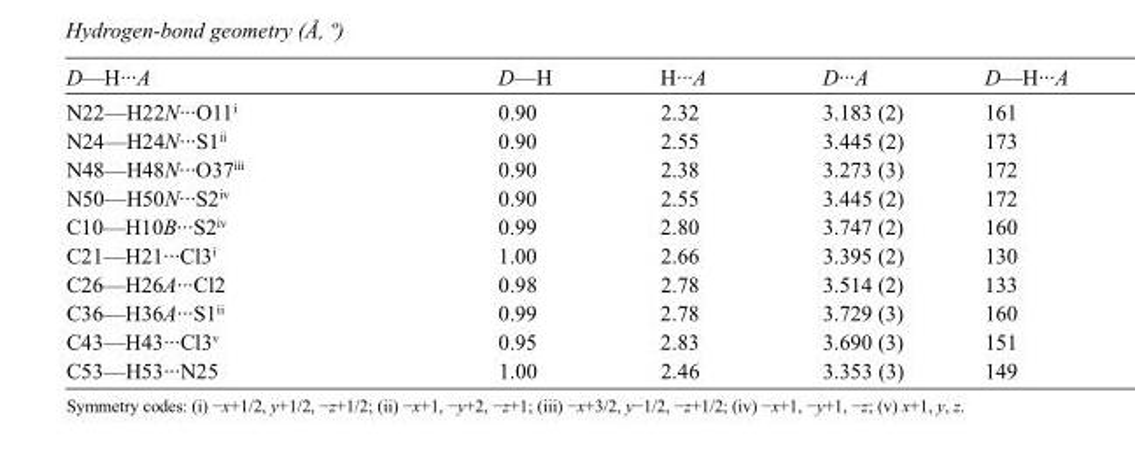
<table><tbody><tr><td>D—H···A</td><td>D—H</td><td>H···A</td><td>D···A</td><td>D—H···A</td></tr><tr><td>N22—H22N···O11<sup>i</sup></td><td>0.90</td><td>2.32</td><td>3.183 (2)</td><td>161</td></tr><tr><td>N24—H24N···S1<sup>ii</sup></td><td>0.90</td><td>2.55</td><td>3.445 (2)</td><td>173</td></tr><tr><td>N48—H48N···O37<sup>iii</sup></td><td>0.90</td><td>2.38</td><td>3.273 (3)</td><td>172</td></tr><tr><td>N50—H50N···S2<sup>iv</sup></td><td>0.90</td><td>2.55</td><td>3.445 (2)</td><td>172</td></tr><tr><td>C10—H10B···S2<sup>iv</sup></td><td>0.99</td><td>2.80</td><td>3.747 (2)</td><td>160</td></tr><tr><td>C21—H21···Cl3<sup>i</sup></td><td>1.00</td><td>2.66</td><td>3.395 (2)</td><td>130</td></tr><tr><td>C26—H26A···Cl2</td><td>0.98</td><td>2.78</td><td>3.514 (2)</td><td>133</td></tr><tr><td>C36—H36A···S1<sup>ii</sup></td><td>0.99</td><td>2.78</td><td>3.729 (3)</td><td>160</td></tr><tr><td>C43—H43···Cl3<sup>v</sup></td><td>0.95</td><td>2.83</td><td>3.690 (3)</td><td>151</td></tr><tr><td>C53—H53···N25</td><td>1.00</td><td>2.46</td><td>3.353 (3)</td><td>149</td></tr></tbody></table>